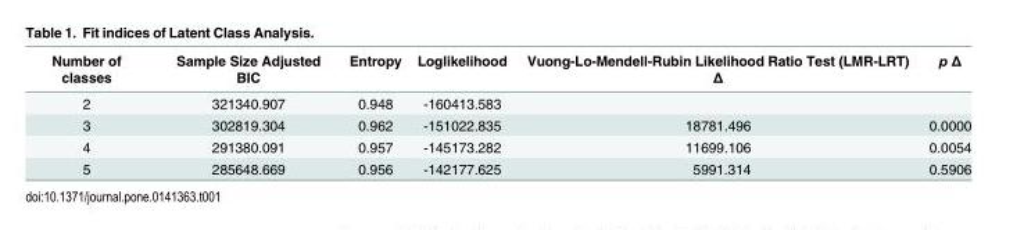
<table><thead><tr><td>Number of classes</td><td>Sample Size Adjusted BIC</td><td>Entropy</td><td>Loglikelihood</td><td>Vuong-Lo-Mendell-Rubin Likelihood Ratio Test (LMR-LRT) Δ</td><td>p Δ</td></tr></thead><tbody><tr><td>2</td><td>321340.907</td><td>0.948</td><td>-160413.583</td><td></td><td></td></tr><tr><td>3</td><td>302819.304</td><td>0.962</td><td>-151022.835</td><td>18781.496</td><td>0.0000</td></tr><tr><td>4</td><td>291380.091</td><td>0.957</td><td>-145173.282</td><td>11699.106</td><td>0.0054</td></tr><tr><td>5</td><td>285648.669</td><td>0.956</td><td>-142177.625</td><td>5991.314</td><td>0.5906</td></tr></tbody></table>